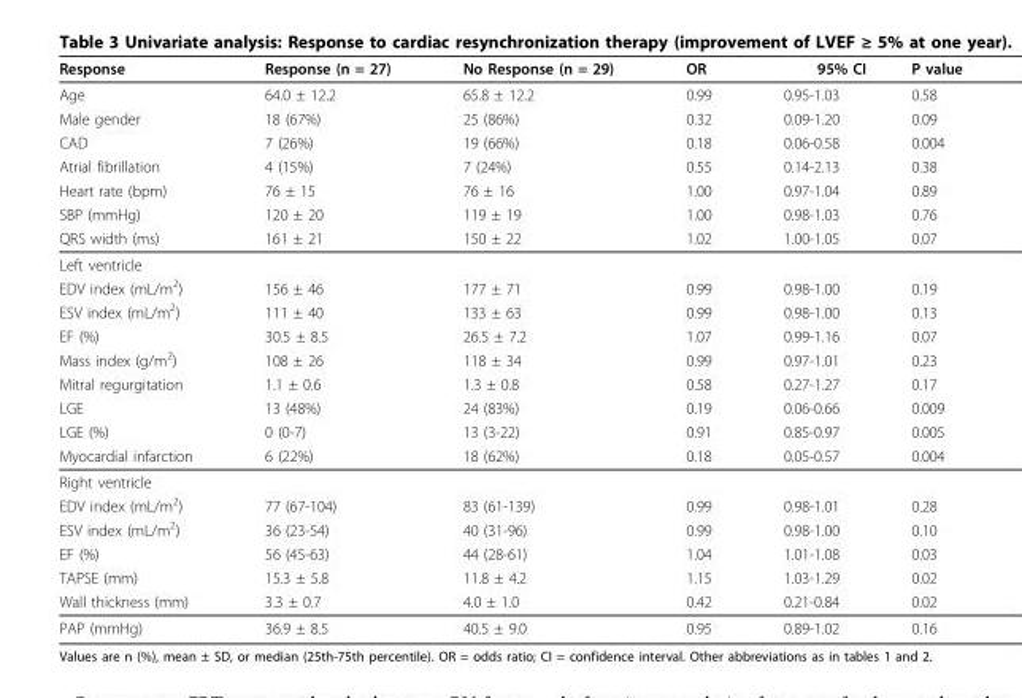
<table><thead><tr><td>Response</td><td>Response (n = 27)</td><td>No Response (n = 29)</td><td>OR</td><td>95% CI</td><td>P value</td></tr></thead><tbody><tr><td>Age</td><td>64.0 ± 12.2</td><td>65.8 ± 12.2</td><td>0.99</td><td>0.95-1.03</td><td>0.58</td></tr><tr><td>Male gender</td><td>18 (67%)</td><td>25 (86%)</td><td>0.32</td><td>0.09-1.20</td><td>0.09</td></tr><tr><td>CAD</td><td>7 (26%)</td><td>19 (66%)</td><td>0.18</td><td>0.06-0.58</td><td>0.004</td></tr><tr><td>Atrial fibrillation</td><td>4 (15%)</td><td>7 (24%)</td><td>0.55</td><td>0.14-2.13</td><td>0.38</td></tr><tr><td>Heart rate (bpm)</td><td>76 ± 15</td><td>76 ± 16</td><td>1.00</td><td>0.97-1.04</td><td>0.89</td></tr><tr><td>SBP (mmHg)</td><td>120 ± 20</td><td>119 ± 19</td><td>1.00</td><td>0.98-1.03</td><td>0.76</td></tr><tr><td>QRS width (ms)</td><td>161 ± 21</td><td>150 ± 22</td><td>1.02</td><td>1.00-1.05</td><td>0.07</td></tr><tr><td colspan="6">Left ventricle</td></tr><tr><td>EDV index (mL/m<sup>2</sup>)</td><td>156 ± 46</td><td>177 ± 71</td><td>0.99</td><td>0.98-1.00</td><td>0.19</td></tr><tr><td>ESV index (mL/m<sup>2</sup>)</td><td>111 ± 40</td><td>133 ± 63</td><td>0.99</td><td>0.98-1.00</td><td>0.13</td></tr><tr><td>EF (%)</td><td>30.5 ± 8.5</td><td>26.5 ± 7.2</td><td>1.07</td><td>0.99-1.16</td><td>0.07</td></tr><tr><td>Mass index (g/m<sup>2</sup>)</td><td>108 ± 26</td><td>118 ± 34</td><td>0.99</td><td>0.97-1.01</td><td>0.23</td></tr><tr><td>Mitral regurgitation</td><td>1.1 ± 0.6</td><td>1.3 ± 0.8</td><td>0.58</td><td>0.27-1.27</td><td>0.17</td></tr><tr><td>LGE</td><td>13 (48%)</td><td>24 (83%)</td><td>0.19</td><td>0.06-0.66</td><td>0.009</td></tr><tr><td>LGE (%)</td><td>0 (0-7)</td><td>13 (3-22)</td><td>0.91</td><td>0.85-0.97</td><td>0.005</td></tr><tr><td>Myocardial infarction</td><td>6 (22%)</td><td>18 (62%)</td><td>0.18</td><td>0.05-0.57</td><td>0.004</td></tr><tr><td colspan="6">Right ventricle</td></tr><tr><td>EDV index (mL/m<sup>2</sup>)</td><td>77 (67-104)</td><td>83 (61-139)</td><td>0.99</td><td>0.98-1.01</td><td>0.28</td></tr><tr><td>ESV index (mL/m<sup>2</sup>)</td><td>36 (23-54)</td><td>40 (31-96)</td><td>0.99</td><td>0.98-1.00</td><td>0.10</td></tr><tr><td>EF (%)</td><td>56 (45-63)</td><td>44 (28-61)</td><td>1.04</td><td>1.01-1.08</td><td>0.03</td></tr><tr><td>TAPSE (mm)</td><td>15.3 ± 5.8</td><td>11.8 ± 4.2</td><td>1.15</td><td>1.03-1.29</td><td>0.02</td></tr><tr><td>Wall thickness (mm)</td><td>3.3 ± 0.7</td><td>4.0 ± 1.0</td><td>0.42</td><td>0.21-0.84</td><td>0.02</td></tr><tr><td>PAP (mmHg)</td><td>36.9 ± 8.5</td><td>40.5 ± 9.0</td><td>0.95</td><td>0.89-1.02</td><td>0.16</td></tr></tbody></table>